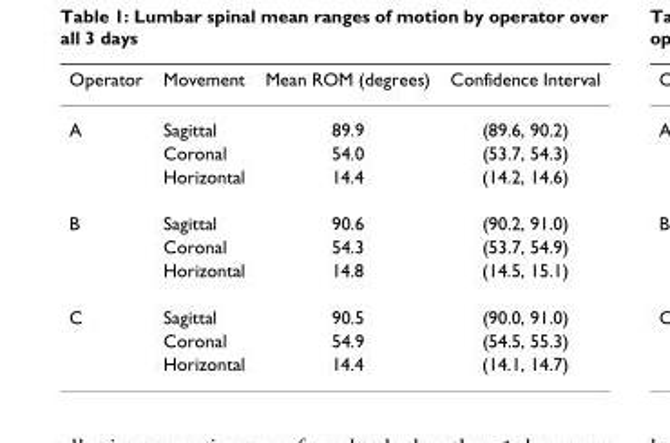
<table><thead><tr><td>Operator</td><td>Movement</td><td>Mean ROM (degrees)</td><td>Confidence Interval</td></tr></thead><tbody><tr><td rowspan="3">A</td><td>Sagittal</td><td>89.9</td><td>(89.6, 90.2)</td></tr><tr><td>Coronal</td><td>54.0</td><td>(53.7, 54.3)</td></tr><tr><td>Horizontal</td><td>14.4</td><td>(14.2, 14.6)</td></tr><tr><td rowspan="3">B</td><td>Sagittal</td><td>90.6</td><td>(90.2, 91.0)</td></tr><tr><td>Coronal</td><td>54.3</td><td>(53.7, 54.9)</td></tr><tr><td>Horizontal</td><td>14.8</td><td>(14.5, 15.1)</td></tr><tr><td rowspan="3">C</td><td>Sagittal</td><td>90.5</td><td>(90.0, 91.0)</td></tr><tr><td>Coronal</td><td>54.9</td><td>(54.5, 55.3)</td></tr><tr><td>Horizontal</td><td>14.4</td><td>(14.1, 14.7)</td></tr></tbody></table>